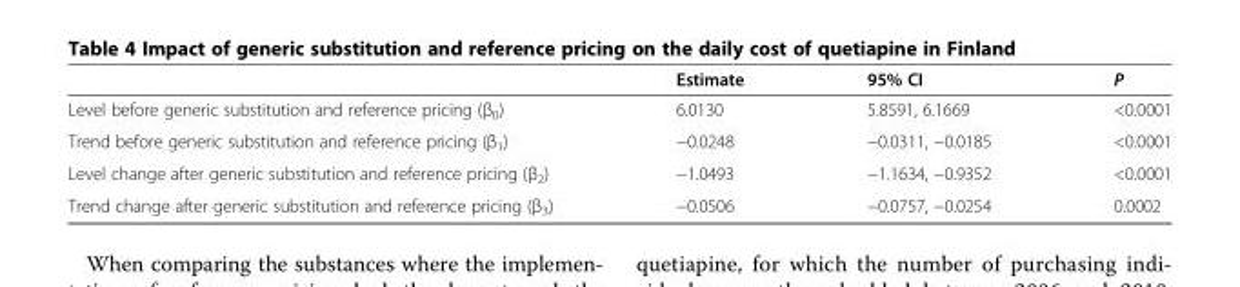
<table><thead><tr><td></td><td>Estimate</td><td>95% CI</td><td>P</td></tr></thead><tbody><tr><td>Level before generic substitution and reference pricing (β<sub>0</sub>)</td><td>6.0130</td><td>5.8591, 6.1669</td><td>&lt;0.0001</td></tr><tr><td>Trend before generic substitution and reference pricing (β<sub>1</sub>)</td><td>−0.0248</td><td>−0.0311, −0.0185</td><td>&lt;0.0001</td></tr><tr><td>Level change after generic substitution and reference pricing (β<sub>2</sub>)</td><td>−1.0493</td><td>−1.1634, −0.9352</td><td>&lt;0.0001</td></tr><tr><td>Trend change after generic substitution and reference pricing (β<sub>3</sub>)</td><td>−0.0506</td><td>−0.0757, −0.0254</td><td>0.0002</td></tr></tbody></table>